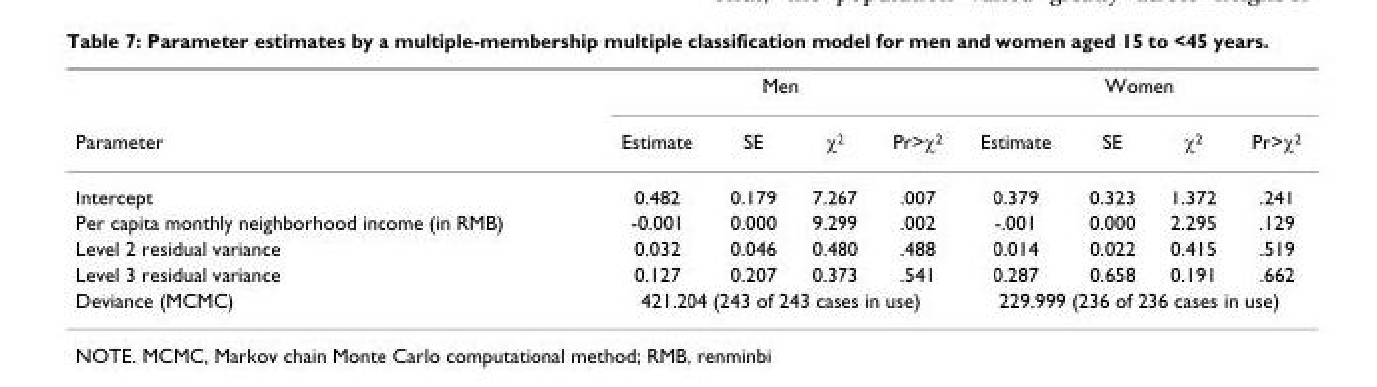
<table><thead><tr><td rowspan="2">Parameter</td><td colspan="4">Men</td><td colspan="4">Women</td></tr><tr><td>Estimate</td><td>SE</td><td>χ<sup>2</sup></td><td>Pr&gt;χ<sup>2</sup></td><td>Estimate</td><td>SE</td><td>χ<sup>2</sup></td><td>Pr&gt;χ<sup>2</sup></td></tr></thead><tbody><tr><td>Intercept</td><td>0.482</td><td>0.179</td><td>7.267</td><td>.007</td><td>0.379</td><td>0.323</td><td>1.372</td><td>.241</td></tr><tr><td>Per capita monthly neighborhood income (in RMB)</td><td>-0.001</td><td>0.000</td><td>9.299</td><td>.002</td><td>-.001</td><td>0.000</td><td>2.295</td><td>.129</td></tr><tr><td>Level 2 residual variance</td><td>0.032</td><td>0.046</td><td>0.480</td><td>.488</td><td>0.014</td><td>0.022</td><td>0.415</td><td>.519</td></tr><tr><td>Level 3 residual variance</td><td>0.127</td><td>0.207</td><td>0.373</td><td>.541</td><td>0.287</td><td>0.658</td><td>0.191</td><td>.662</td></tr><tr><td>Deviance (MCMC)</td><td colspan="4">421.204 (243 of 243 cases in use)</td><td colspan="4">229.999 (236 of 236 cases in use)</td></tr></tbody></table>